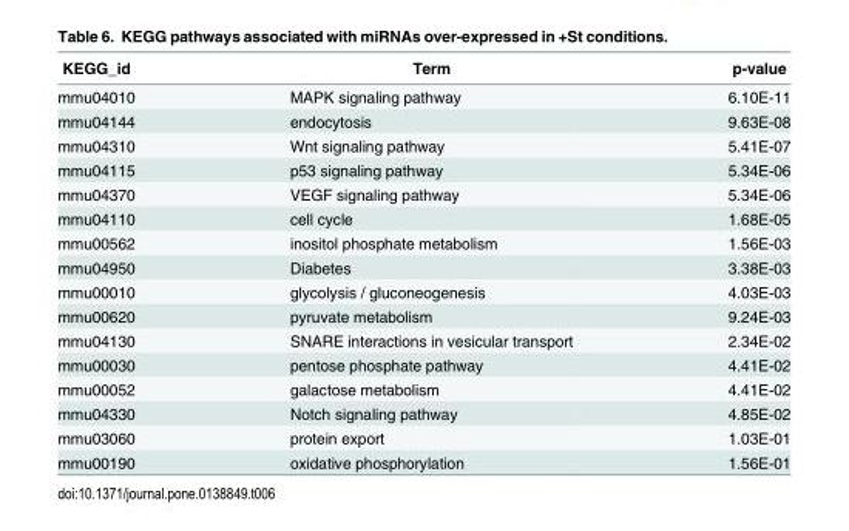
<table><thead><tr><td>KEGG_id</td><td>Term</td><td>p-value</td></tr></thead><tbody><tr><td>mmu04010</td><td>MAPK signaling pathway</td><td>6.10E-11</td></tr><tr><td>mmu04144</td><td>endocytosis</td><td>9.63E-08</td></tr><tr><td>mmu04310</td><td>Wnt signaling pathway</td><td>5.41E-07</td></tr><tr><td>mmu04115</td><td>p53 signaling pathway</td><td>5.34E-06</td></tr><tr><td>mmu04370</td><td>VEGF signaling pathway</td><td>5.34E-06</td></tr><tr><td>mmu04110</td><td>cell cycle</td><td>1.68E-05</td></tr><tr><td>mmu00562</td><td>inositol phosphate metabolism</td><td>1.56E-03</td></tr><tr><td>mmu04950</td><td>Diabetes</td><td>3.38E-03</td></tr><tr><td>mmu00010</td><td>glycolysis / gluconeogenesis</td><td>4.03E-03</td></tr><tr><td>mmu00620</td><td>pyruvate metabolism</td><td>9.24E-03</td></tr><tr><td>mmu04130</td><td>SNARE interactions in vesicular transport</td><td>2.34E-02</td></tr><tr><td>mmu00030</td><td>pentose phosphate pathway</td><td>4.41E-02</td></tr><tr><td>mmu00052</td><td>galactose metabolism</td><td>4.41E-02</td></tr><tr><td>mmu04330</td><td>Notch signaling pathway</td><td>4.85E-02</td></tr><tr><td>mmu03060</td><td>protein export</td><td>1.03E-01</td></tr><tr><td>mmu00190</td><td>oxidative phosphorylation</td><td>1.56E-01</td></tr></tbody></table>